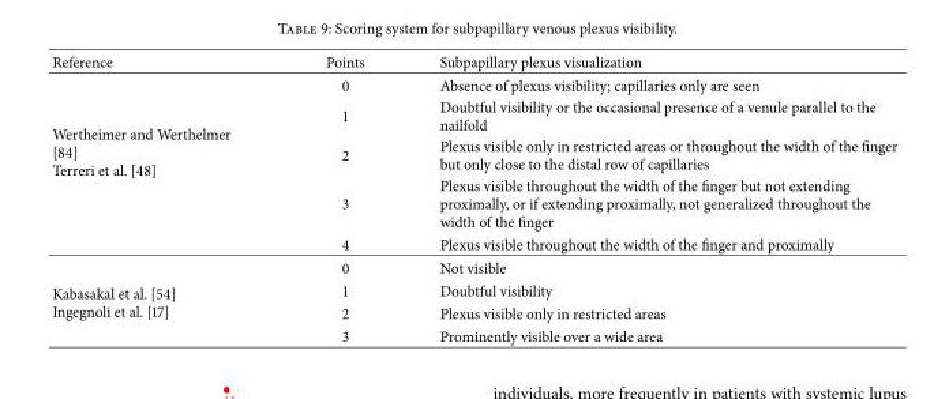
<table><thead><tr><td>Reference</td><td>Points</td><td>Subpapillary plexus visualization</td></tr></thead><tbody><tr><td rowspan="5">Wertheimer and Werthelmer [84] Terreri et al. [48]</td><td>0</td><td>Absence of plexus visibility; capillaries only are seen</td></tr><tr><td>1</td><td>Doubtful visibility or the occasional presence of a venule parallel to the nailfold</td></tr><tr><td>2</td><td>Plexus visible only in restricted areas or throughout the width of the finger but only close to the distal row of capillaries</td></tr><tr><td>3</td><td>Plexus visible throughout the width of the finger but not extending proximally, or if extending proximally, not generalized throughout the width of the finger</td></tr><tr><td>4</td><td>Plexus visible throughout the width of the finger and proximally</td></tr><tr><td rowspan="4">Kabasakal et al. [54] Ingegnoli et al. [17]</td><td>0</td><td>Not visible</td></tr><tr><td>1</td><td>Doubtful visibility</td></tr><tr><td>2</td><td>Plexus visible only in restricted areas</td></tr><tr><td>3</td><td>Prominently visible over a wide area</td></tr></tbody></table>